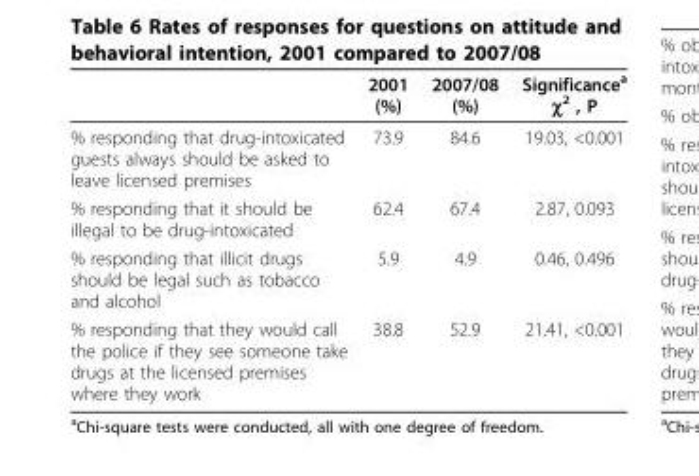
<table><thead><tr><td></td><td>2001 (%)</td><td>2007/08 (%)</td><td>Significance<sup>a</sup> χ<sup>2</sup> , P</td></tr></thead><tbody><tr><td>% responding that drug-intoxicated guests always should be asked to leave licensed premises</td><td>73.9</td><td>84.6</td><td>19.03, &lt;0.001</td></tr><tr><td>% responding that it should be illegal to be drug-intoxicated</td><td>62.4</td><td>67.4</td><td>2.87, 0.093</td></tr><tr><td>% responding that illicit drugs should be legal such as tobacco and alcohol</td><td>5.9</td><td>4.9</td><td>0.46, 0.496</td></tr><tr><td>% responding that they would call the police if they see someone take drugs at the licensed premises where they work</td><td>38.8</td><td>52.9</td><td>21.41, &lt;0.001</td></tr></tbody></table>